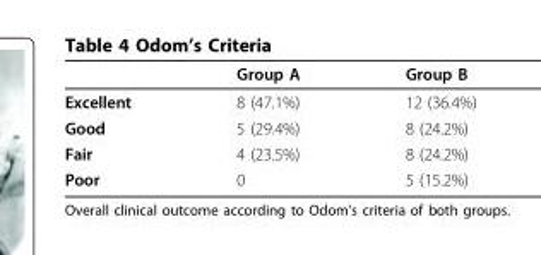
<table><thead><tr><td></td><td>Group A</td><td>Group B</td></tr></thead><tbody><tr><td>Excellent</td><td>8 (47.1%)</td><td>12 (36.4%)</td></tr><tr><td>Good</td><td>5 (29.4%)</td><td>8 (24.2%)</td></tr><tr><td>Fair</td><td>4 (23.5%)</td><td>8 (24.2%)</td></tr><tr><td>Poor</td><td>0</td><td>5 (15.2%)</td></tr></tbody></table>